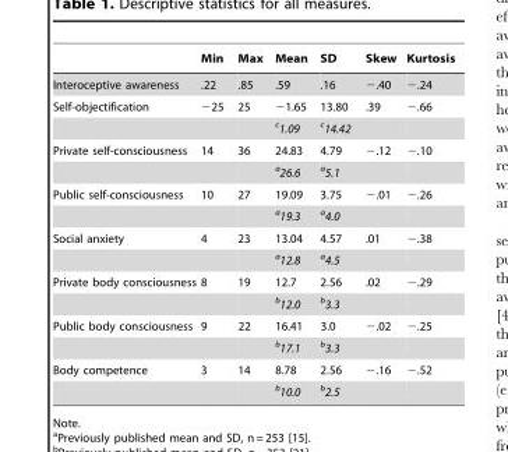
<table><thead><tr><td></td><td>Min</td><td>Max</td><td>Mean</td><td>SD</td><td>Skew</td><td>Kurtosis</td></tr></thead><tbody><tr><td>Interoceptive awareness</td><td>.22</td><td>.85</td><td>.59</td><td>.16</td><td>−.40</td><td>−.24</td></tr><tr><td rowspan="2">Self-objectification</td><td>−25</td><td>25</td><td>−1.65</td><td>13.80</td><td>.39</td><td>−.66</td></tr><tr><td></td><td></td><td>c1.09</td><td>c14.42</td><td></td><td></td></tr><tr><td rowspan="2">Private self-consciousness</td><td>14</td><td>36</td><td>24.83</td><td>4.79</td><td>−.12</td><td>−.10</td></tr><tr><td></td><td></td><td>a26.6</td><td>a5.1</td><td></td><td></td></tr><tr><td rowspan="2">Public self-consciousness</td><td>10</td><td>27</td><td>19.09</td><td>3.75</td><td>−.01</td><td>−.26</td></tr><tr><td></td><td></td><td>a19.3</td><td>a4.0</td><td></td><td></td></tr><tr><td rowspan="2">Social anxiety</td><td>4</td><td>23</td><td>13.04</td><td>4.57</td><td>.01</td><td>−.38</td></tr><tr><td></td><td></td><td>a12.8</td><td>a4.5</td><td></td><td></td></tr><tr><td rowspan="2">Private body consciousness</td><td>8</td><td>19</td><td>12.7</td><td>2.56</td><td>.02</td><td>−.29</td></tr><tr><td></td><td></td><td>b12.0</td><td>b3.3</td><td></td><td></td></tr><tr><td rowspan="2">Public body consciousness</td><td>9</td><td>22</td><td>16.41</td><td>3.0</td><td>−.02</td><td>−.25</td></tr><tr><td></td><td></td><td>b17.1</td><td>b3.3</td><td></td><td></td></tr><tr><td rowspan="2">Body competence</td><td>3</td><td>14</td><td>8.78</td><td>2.56</td><td>−.16</td><td>−.52</td></tr><tr><td></td><td></td><td>b10.0</td><td>b2.5</td><td></td><td></td></tr></tbody></table>